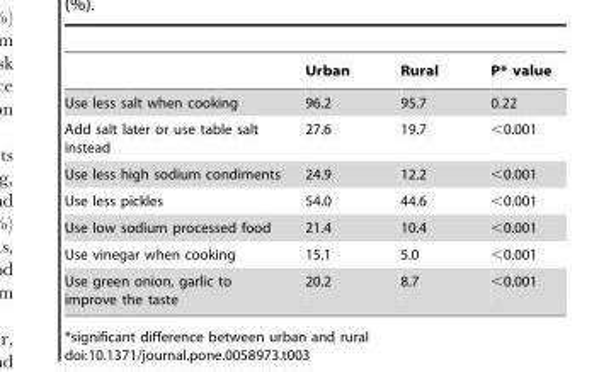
<table><thead><tr><td></td><td>Urban</td><td>Rural</td><td>P* value</td></tr></thead><tbody><tr><td>Use less salt when cooking</td><td>96.2</td><td>95.7</td><td>0.22</td></tr><tr><td>Add salt later or use table salt instead</td><td>27.6</td><td>19.7</td><td>&lt;0.001</td></tr><tr><td>Use less high sodium condiments</td><td>24.9</td><td>12.2</td><td>&lt;0.001</td></tr><tr><td>Use less pickles</td><td>54.0</td><td>44.6</td><td>&lt;0.001</td></tr><tr><td>Use low sodium processed food</td><td>21.4</td><td>10.4</td><td>&lt;0.001</td></tr><tr><td>Use vinegar when cooking</td><td>15.1</td><td>5.0</td><td>&lt;0.001</td></tr><tr><td>Use green onion, garlic to improve the taste</td><td>20.2</td><td>8.7</td><td>&lt;0.001</td></tr></tbody></table>